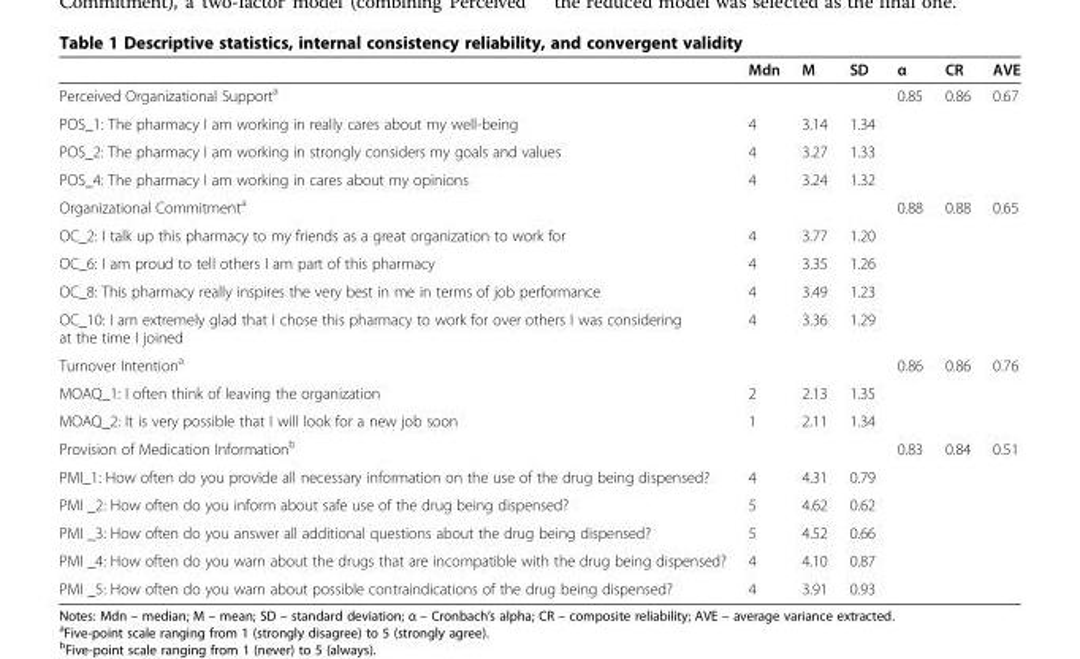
<table><thead><tr><td></td><td>Mdn</td><td>M</td><td>SD</td><td>α</td><td>CR</td><td>AVE</td></tr></thead><tbody><tr><td>Perceived Organizational Support<sup>a</sup></td><td></td><td></td><td></td><td>0.85</td><td>0.86</td><td>0.67</td></tr><tr><td>POS_1: The pharmacy I am working in really cares about my well-being</td><td>4</td><td>3.14</td><td>1.34</td><td></td><td></td><td></td></tr><tr><td>POS_2: The pharmacy I am working in strongly considers my goals and values</td><td>4</td><td>3.27</td><td>1.33</td><td></td><td></td><td></td></tr><tr><td>POS_4: The pharmacy I am working in cares about my opinions</td><td>4</td><td>3.24</td><td>1.32</td><td></td><td></td><td></td></tr><tr><td>Organizational Commitment<sup>a</sup></td><td></td><td></td><td></td><td>0.88</td><td>0.88</td><td>0.65</td></tr><tr><td>OC_2: I talk up this pharmacy to my friends as a great organization to work for</td><td>4</td><td>3.77</td><td>1.20</td><td></td><td></td><td></td></tr><tr><td>OC_6: I am proud to tell others I am part of this pharmacy</td><td>4</td><td>3.35</td><td>1.26</td><td></td><td></td><td></td></tr><tr><td>OC_8: This pharmacy really inspires the very best in me in terms of job performance</td><td>4</td><td>3.49</td><td>1.23</td><td></td><td></td><td></td></tr><tr><td>OC_10: I am extremely glad that I chose this pharmacy to work for over others I was considering at the time I joined</td><td>4</td><td>3.36</td><td>1.29</td><td></td><td></td><td></td></tr><tr><td>Turnover Intention<sup>a</sup></td><td></td><td></td><td></td><td>0.86</td><td>0.86</td><td>0.76</td></tr><tr><td>MOAQ_1: I often think of leaving the organization</td><td>2</td><td>2.13</td><td>1.35</td><td></td><td></td><td></td></tr><tr><td>MOAQ_2: It is very possible that I will look for a new job soon</td><td>1</td><td>2.11</td><td>1.34</td><td></td><td></td><td></td></tr><tr><td>Provision of Medication Information<sup>b</sup></td><td></td><td></td><td></td><td>0.83</td><td>0.84</td><td>0.51</td></tr><tr><td>PMI_1: How often do you provide all necessary information on the use of the drug being dispensed?</td><td>4</td><td>4.31</td><td>0.79</td><td></td><td></td><td></td></tr><tr><td>PMI _2: How often do you inform about safe use of the drug being dispensed?</td><td>5</td><td>4.62</td><td>0.62</td><td></td><td></td><td></td></tr><tr><td>PMI _3: How often do you answer all additional questions about the drug being dispensed?</td><td>5</td><td>4.52</td><td>0.66</td><td></td><td></td><td></td></tr><tr><td>PMI _4: How often do you warn about the drugs that are incompatible with the drug being dispensed?</td><td>4</td><td>4.10</td><td>0.87</td><td></td><td></td><td></td></tr><tr><td>PMI _5: How often do you warn about possible contraindications of the drug being dispensed?</td><td>4</td><td>3.91</td><td>0.93</td><td></td><td></td><td></td></tr></tbody></table>